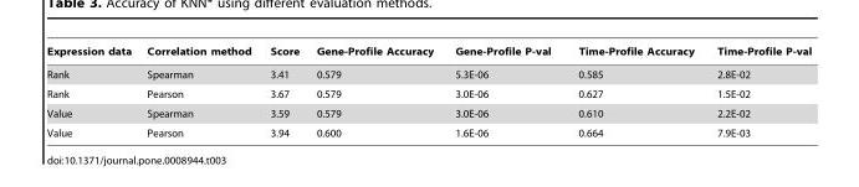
<table><thead><tr><td>Expression data</td><td>Correlation method</td><td>Score</td><td>Gene-Profile Accuracy</td><td>Gene-Profile P-val</td><td>Time-Profile Accuracy</td><td>Time-Profile P-val</td></tr></thead><tbody><tr><td>Rank</td><td>Spearman</td><td>3.41</td><td>0.579</td><td>5.3E-06</td><td>0.585</td><td>2.8E-02</td></tr><tr><td>Rank</td><td>Pearson</td><td>3.67</td><td>0.579</td><td>3.0E-06</td><td>0.627</td><td>1.5E-02</td></tr><tr><td>Value</td><td>Spearman</td><td>3.59</td><td>0.579</td><td>3.0E-06</td><td>0.610</td><td>2.2E-02</td></tr><tr><td>Value</td><td>Pearson</td><td>3.94</td><td>0.600</td><td>1.6E-06</td><td>0.664</td><td>7.9E-03</td></tr></tbody></table>